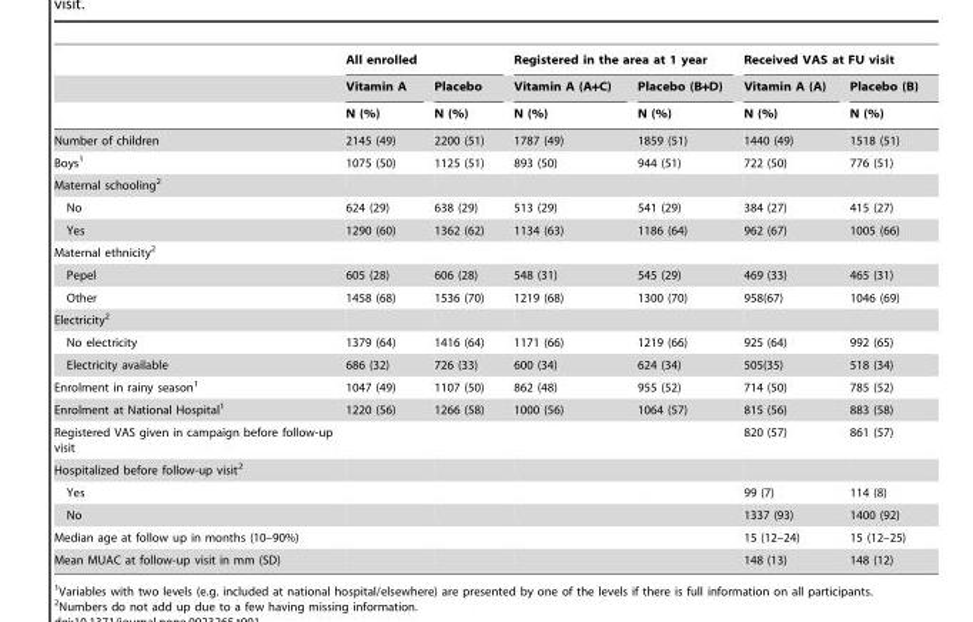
<table><thead><tr><td rowspan="3"></td><td colspan="2">All enrolled</td><td colspan="2">Registered in the area at 1 year</td><td colspan="2">Received VAS at FU visit</td></tr><tr><td rowspan="2">Vitamin A N (%)</td><td rowspan="2">Placebo N (%)</td><td rowspan="2">Vitamin A (A+C) N (%)</td><td rowspan="2">Placebo (B+D) N (%)</td><td rowspan="2">Vitamin A (A) N (%)</td><td rowspan="2">Placebo (B) N (%)</td></tr><tr></tr></thead><tbody><tr><td>Number of children</td><td>2145 (49)</td><td>2200 (51)</td><td>1787 (49)</td><td>1859 (51)</td><td>1440 (49)</td><td>1518 (51)</td></tr><tr><td>Boys<sup>1</sup></td><td>1075 (50)</td><td>1125 (51)</td><td>893 (50)</td><td>944 (51)</td><td>722 (50)</td><td>776 (51)</td></tr><tr><td colspan="7">Maternal schooling<sup>2</sup></td></tr><tr><td>No</td><td>624 (29)</td><td>638 (29)</td><td>513 (29)</td><td>541 (29)</td><td>384 (27)</td><td>415 (27)</td></tr><tr><td>Yes</td><td>1290 (60)</td><td>1362 (62)</td><td>1134 (63)</td><td>1186 (64)</td><td>962 (67)</td><td>1005 (66)</td></tr><tr><td colspan="7">Maternal ethnicity<sup>2</sup></td></tr><tr><td>Pepel</td><td>605 (28)</td><td>606 (28)</td><td>548 (31)</td><td>545 (29)</td><td>469 (33)</td><td>465 (31)</td></tr><tr><td>Other</td><td>1458 (68)</td><td>1536 (70)</td><td>1219 (68)</td><td>1300 (70)</td><td>958(67)</td><td>1046 (69)</td></tr><tr><td colspan="7">Electricity<sup>2</sup></td></tr><tr><td>No electricity</td><td>1379 (64)</td><td>1416 (64)</td><td>1171 (66)</td><td>1219 (66)</td><td>925 (64)</td><td>992 (65)</td></tr><tr><td>Electricity available</td><td>686 (32)</td><td>726 (33)</td><td>600 (34)</td><td>624 (34)</td><td>505(35)</td><td>518 (34)</td></tr><tr><td>Enrolment in rainy season<sup>1</sup></td><td>1047 (49)</td><td>1107 (50)</td><td>862 (48)</td><td>955 (52)</td><td>714 (50)</td><td>785 (52)</td></tr><tr><td>Enrolment at National Hospital<sup>1</sup></td><td>1220 (56)</td><td>1266 (58)</td><td>1000 (56)</td><td>1064 (57)</td><td>815 (56)</td><td>883 (58)</td></tr><tr><td>Registered VAS given in campaign before follow-up visit</td><td></td><td></td><td></td><td></td><td>820 (57)</td><td>861 (57)</td></tr><tr><td colspan="7">Hospitalized before follow-up visit<sup>2</sup></td></tr><tr><td>Yes</td><td></td><td></td><td></td><td></td><td>99 (7)</td><td>114 (8)</td></tr><tr><td>No</td><td></td><td></td><td></td><td></td><td>1337 (93)</td><td>1400 (92)</td></tr><tr><td>Median age at follow up in months (10–90%)</td><td></td><td></td><td></td><td></td><td>15 (12–24)</td><td>15 (12–25)</td></tr><tr><td>Mean MUAC at follow-up visit in mm (SD)</td><td></td><td></td><td></td><td></td><td>148 (13)</td><td>148 (12)</td></tr></tbody></table>